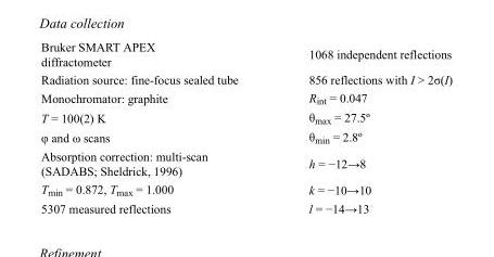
<table><tbody><tr><td>Bruker SMART APEX diffractometer</td><td>1068 independent reflections</td></tr><tr><td>Radiation source: fine-focus sealed tube</td><td>856 reflections with I &gt; 2σ(I)</td></tr><tr><td>Monochromator: graphite</td><td>R<sub>int</sub> = 0.047</td></tr><tr><td>T = 100(2) K</td><td>θ<sub>max</sub> = 27.5º</td></tr><tr><td>φ and ω scans</td><td>θ<sub>min</sub> = 2.8º</td></tr><tr><td>Absorption correction: multi-scan (SADABS; Sheldrick, 1996)</td><td>h = −12→8</td></tr><tr><td>T<sub>min</sub> = 0.872, T<sub>max</sub> = 1.000</td><td>k = −10→10</td></tr><tr><td>5307 measured reflections</td><td>l = −14→13</td></tr></tbody></table>